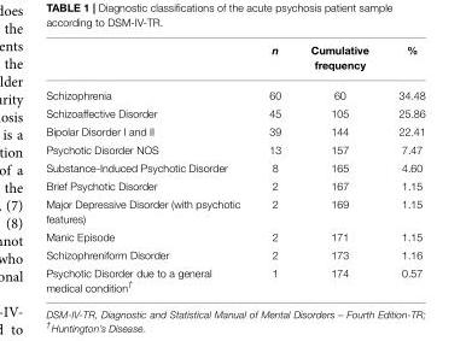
<table><thead><tr><td></td><td>n</td><td>Cumulative frequency</td><td>%</td></tr></thead><tbody><tr><td>Schizophrenia</td><td>60</td><td>60</td><td>34.48</td></tr><tr><td>Schizoaffective Disorder</td><td>45</td><td>105</td><td>25.86</td></tr><tr><td>Bipolar Disorder I and II</td><td>39</td><td>144</td><td>22.41</td></tr><tr><td>Psychotic Disorder NOS</td><td>13</td><td>157</td><td>7.47</td></tr><tr><td>Substance-Induced Psychotic Disorder</td><td>8</td><td>165</td><td>4.60</td></tr><tr><td>Brief Psychotic Disorder</td><td>2</td><td>167</td><td>1.15</td></tr><tr><td>Major Depressive Disorder (with psychotic features)</td><td>2</td><td>169</td><td>1.15</td></tr><tr><td>Manic Episode</td><td>2</td><td>171</td><td>1.15</td></tr><tr><td>Schizophreniform Disorder</td><td>2</td><td>173</td><td>1.16</td></tr><tr><td>Psychotic Disorder due to a general medical condition<sup>†</sup></td><td>1</td><td>174</td><td>0.57</td></tr></tbody></table>